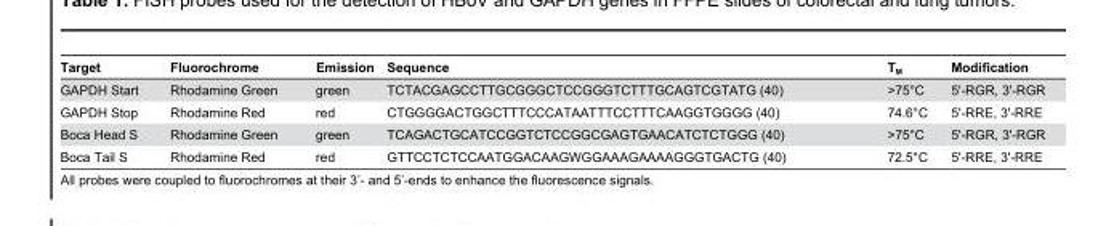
<table><thead><tr><td>Target</td><td>Fluorochrome</td><td>Emission</td><td>Sequence</td><td>T<sub>M</sub></td><td>Modification</td></tr></thead><tbody><tr><td>GAPDH Start</td><td>Rhodamine Green</td><td>green</td><td>TCTACGAGCCTTGCGGGCTCCGGGTCTTTGCAGTCGTATG (40)</td><td>&gt;75°C</td><td>5&#x27;-RGR, 3&#x27;-RGR</td></tr><tr><td>GAPDH Stop</td><td>Rhodamine Red</td><td>red</td><td>CTGGGGACTGGCTTTCCCATAATTTCCTTTCAAGGTGGGG (40)</td><td>74.6°C</td><td>5&#x27;-RRE, 3&#x27;-RRE</td></tr><tr><td>Boca Head S</td><td>Rhodamine Green</td><td>green</td><td>TCAGACTGCATCCGGTCTCCGGCGAGTGAACATCTCTGGG (40)</td><td>&gt;75°C</td><td>5&#x27;-RGR, 3&#x27;-RGR</td></tr><tr><td>Boca Tail S</td><td>Rhodamine Red</td><td>red</td><td>GTTCCTCTCCAATGGACAAGWGGAAAGAAAAGGGTGACTG (40)</td><td>72.5°C</td><td>5&#x27;-RRE, 3&#x27;-RRE</td></tr></tbody></table>